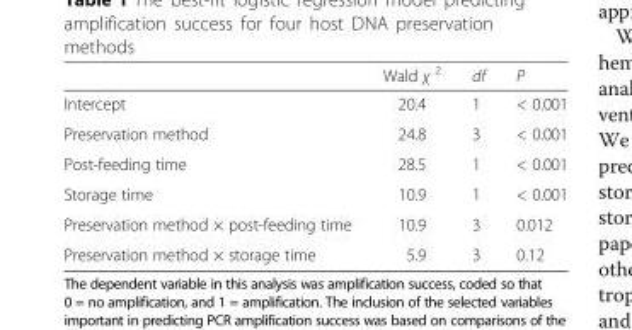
<table><thead><tr><td></td><td>Wald χ <sup>2</sup></td><td>df</td><td>P</td></tr></thead><tbody><tr><td>Intercept</td><td>20.4</td><td>1</td><td>&lt; 0.001</td></tr><tr><td>Preservation method</td><td>24.8</td><td>3</td><td>&lt; 0.001</td></tr><tr><td>Post-feeding time</td><td>28.5</td><td>1</td><td>&lt; 0.001</td></tr><tr><td>Storage time</td><td>10.9</td><td>1</td><td>&lt; 0.001</td></tr><tr><td>Preservation method × post-feeding time</td><td>10.9</td><td>3</td><td>0.012</td></tr><tr><td>Preservation method × storage time</td><td>5.9</td><td>3</td><td>0.12</td></tr></tbody></table>